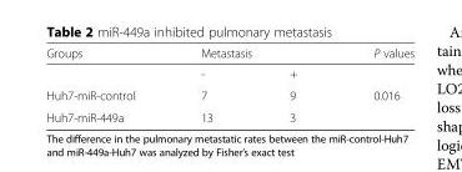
<table><thead><tr><td rowspan="2">Groups</td><td colspan="2">Metastasis</td><td rowspan="2">P values</td></tr><tr><td>-</td><td>+</td></tr></thead><tbody><tr><td>Huh7-miR-control</td><td>7</td><td>9</td><td rowspan="2">0.016</td></tr><tr><td>Huh7-miR-449a</td><td>13</td><td>3</td></tr></tbody></table>